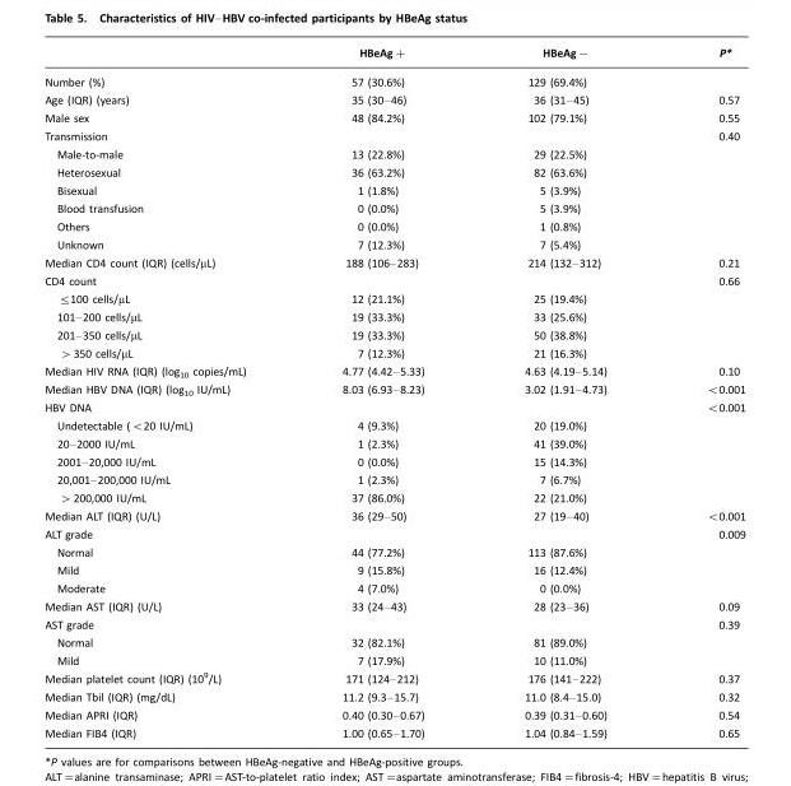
<table><thead><tr><td></td><td>HBeAg+</td><td>HBeAg−</td><td>P*</td></tr></thead><tbody><tr><td>Number (%)</td><td>57 (30.6%)</td><td>129 (69.4%)</td><td></td></tr><tr><td>Age (IQR) (years)</td><td>35 (30–46)</td><td>36 (31–45)</td><td>0.57</td></tr><tr><td>Male sex</td><td>48 (84.2%)</td><td>102 (79.1%)</td><td>0.55</td></tr><tr><td>Transmission</td><td></td><td></td><td>0.40</td></tr><tr><td>Male-to-male</td><td>13 (22.8%)</td><td>29 (22.5%)</td><td></td></tr><tr><td>Heterosexual</td><td>36 (63.2%)</td><td>82 (63.6%)</td><td></td></tr><tr><td>Bisexual</td><td>1 (1.8%)</td><td>5 (3.9%)</td><td></td></tr><tr><td>Blood transfusion</td><td>0 (0.0%)</td><td>5 (3.9%)</td><td></td></tr><tr><td>Others</td><td>0 (0.0%)</td><td>1 (0.8%)</td><td></td></tr><tr><td>Unknown</td><td>7 (12.3%)</td><td>7 (5.4%)</td><td></td></tr><tr><td>Median CD4 count (IQR) (cells/μL)</td><td>188 (106–283)</td><td>214 (132–312)</td><td>0.21</td></tr><tr><td>CD4 count</td><td></td><td></td><td>0.66</td></tr><tr><td>≤100 cells/μL</td><td>12 (21.1%)</td><td>25 (19.4%)</td><td></td></tr><tr><td>101–200 cells/μL</td><td>19 (33.3%)</td><td>33 (25.6%)</td><td></td></tr><tr><td>201–350 cells/μL</td><td>19 (33.3%)</td><td>50 (38.8%)</td><td></td></tr><tr><td>&gt;350 cells/μL</td><td>7 (12.3%)</td><td>21 (16.3%)</td><td></td></tr><tr><td>Median HIV RNA (IQR) (log<sub>10</sub> copies/mL)</td><td>4.77 (4.42–5.33)</td><td>4.63 (4.19–5.14)</td><td>0.10</td></tr><tr><td>Median HBV DNA (IQR) (log<sub>10</sub> IU/mL)</td><td>8.03 (6.93–8.23)</td><td>3.02 (1.91–4.73)</td><td>&lt;0.001</td></tr><tr><td>HBV DNA</td><td></td><td></td><td>&lt;0.001</td></tr><tr><td>Undetectable (&lt;20 IU/mL)</td><td>4 (9.3%)</td><td>20 (19.0%)</td><td></td></tr><tr><td>20–2000 IU/mL</td><td>1 (2.3%)</td><td>41 (39.0%)</td><td></td></tr><tr><td>2001–20,000 IU/mL</td><td>0 (0.0%)</td><td>15 (14.3%)</td><td></td></tr><tr><td>20,001–200,000 IU/mL</td><td>1 (2.3%)</td><td>7 (6.7%)</td><td></td></tr><tr><td>&gt;200,000 IU/mL</td><td>37 (86.0%)</td><td>22 (21.0%)</td><td></td></tr><tr><td>Median ALT (IQR) (U/L)</td><td>36 (29–50)</td><td>27 (19–40)</td><td>&lt;0.001</td></tr><tr><td>ALT grade</td><td></td><td></td><td>0.009</td></tr><tr><td>Normal</td><td>44 (77.2%)</td><td>113 (87.6%)</td><td></td></tr><tr><td>Mild</td><td>9 (15.8%)</td><td>16 (12.4%)</td><td></td></tr><tr><td>Moderate</td><td>4 (7.0%)</td><td>0 (0.0%)</td><td></td></tr><tr><td>Median AST (IQR) (U/L)</td><td>33 (24–43)</td><td>28 (23–36)</td><td>0.09</td></tr><tr><td>AST grade</td><td></td><td></td><td>0.39</td></tr><tr><td>Normal</td><td>32 (82.1%)</td><td>81 (89.0%)</td><td></td></tr><tr><td>Mild</td><td>7 (17.9%)</td><td>10 (11.0%)</td><td></td></tr><tr><td>Median platelet count (IQR) (10<sup>9</sup>/L)</td><td>171 (124–212)</td><td>176 (141–222)</td><td>0.37</td></tr><tr><td>Median Tbil (IQR) (mg/dL)</td><td>11.2 (9.3–15.7)</td><td>11.0 (8.4–15.0)</td><td>0.32</td></tr><tr><td>Median APRI (IQR)</td><td>0.40 (0.30–0.67)</td><td>0.39 (0.31–0.60)</td><td>0.54</td></tr><tr><td>Median FIB4 (IQR)</td><td>1.00 (0.65–1.70)</td><td>1.04 (0.84–1.59)</td><td>0.65</td></tr></tbody></table>